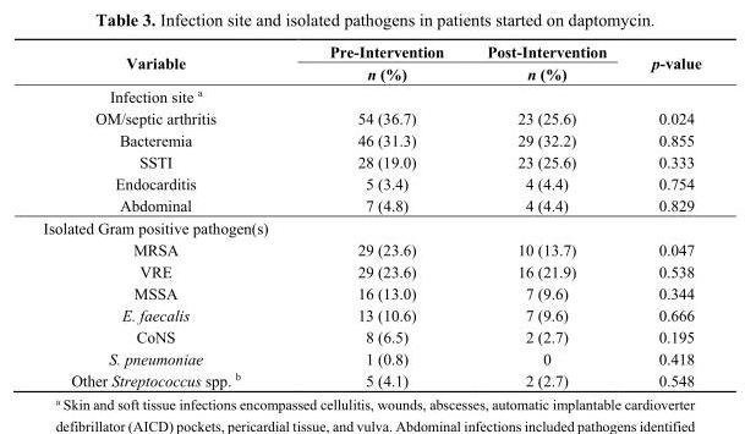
<table><thead><tr><td rowspan="2">Variable</td><td rowspan="2">Pre-Intervention n (%)</td><td rowspan="2">Post-Intervention n (%)</td><td rowspan="2">p-value</td></tr><tr></tr></thead><tbody><tr><td colspan="4">Infection site <sup>a</sup></td></tr><tr><td>OM/septic arthritis</td><td>54 (36.7)</td><td>23 (25.6)</td><td>0.024</td></tr><tr><td>Bacteremia</td><td>46 (31.3)</td><td>29 (32.2)</td><td>0.855</td></tr><tr><td>SSTI</td><td>28 (19.0)</td><td>23 (25.6)</td><td>0.333</td></tr><tr><td>Endocarditis</td><td>5 (3.4)</td><td>4 (4.4)</td><td>0.754</td></tr><tr><td>Abdominal</td><td>7 (4.8)</td><td>4 (4.4)</td><td>0.829</td></tr><tr><td colspan="4">Isolated Gram positive pathogen(s)</td></tr><tr><td>MRSA</td><td>29 (23.6)</td><td>10 (13.7)</td><td>0.047</td></tr><tr><td>VRE</td><td>29 (23.6)</td><td>16 (21.9)</td><td>0.538</td></tr><tr><td>MSSA</td><td>16 (13.0)</td><td>7 (9.6)</td><td>0.344</td></tr><tr><td>E. faecalis</td><td>13 (10.6)</td><td>7 (9.6)</td><td>0.666</td></tr><tr><td>CoNS</td><td>8 (6.5)</td><td>2 (2.7)</td><td>0.195</td></tr><tr><td>S. pneumoniae</td><td>1 (0.8)</td><td>0</td><td>0.418</td></tr><tr><td>Other Streptococcus spp. <sup>b</sup></td><td>5 (4.1)</td><td>2 (2.7)</td><td>0.548</td></tr></tbody></table>